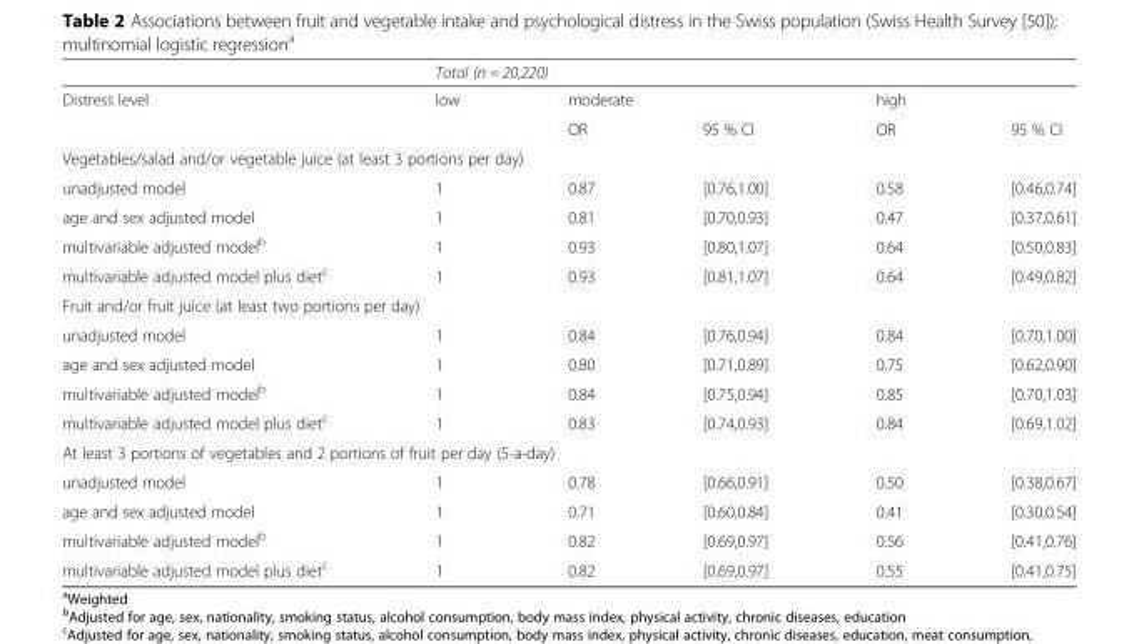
<table><thead><tr><td rowspan="3">Distress level</td><td colspan="5">Total (n = 20,220)</td></tr><tr><td rowspan="2">low</td><td colspan="2">moderate</td><td colspan="2">high</td></tr><tr><td>OR</td><td>95 % CI</td><td>OR</td><td>95 % CI</td></tr></thead><tbody><tr><td colspan="6">Vegetables/salad and/or vegetable juice (at least 3 portions per day)</td></tr><tr><td>unadjusted model</td><td>1</td><td>0.87</td><td>[0.76,1.00]</td><td>0.58</td><td>[0.46,0.74]</td></tr><tr><td>age and sex adjusted model</td><td>1</td><td>0.81</td><td>[0.70,0.93]</td><td>0.47</td><td>[0.37,0.61]</td></tr><tr><td>multivariable adjusted model<sup>b</sup></td><td>1</td><td>0.93</td><td>[0.80,1.07]</td><td>0.64</td><td>[0.50,0.83]</td></tr><tr><td>multivariable adjusted model plus diet<sup>c</sup></td><td>1</td><td>0.93</td><td>[0.81,1.07]</td><td>0.64</td><td>[0.49,0.82]</td></tr><tr><td colspan="6">Fruit and/or fruit juice (at least two portions per day)</td></tr><tr><td>unadjusted model</td><td>1</td><td>0.84</td><td>[0.76,0.94]</td><td>0.84</td><td>[0.70,1.00]</td></tr><tr><td>age and sex adjusted model</td><td>1</td><td>0.80</td><td>[0.71,0.89]</td><td>0.75</td><td>[0.62,0.90]</td></tr><tr><td>multivariable adjusted model<sup>b</sup></td><td>1</td><td>0.84</td><td>[0.75,0.94]</td><td>0.85</td><td>[0.70,1.03]</td></tr><tr><td>multivariable adjusted model plus diet<sup>c</sup></td><td>1</td><td>0.83</td><td>[0.74,0.93]</td><td>0.84</td><td>[0.69,1.02]</td></tr><tr><td colspan="6">At least 3 portions of vegetables and 2 portions of fruit per day (5-a-day)</td></tr><tr><td>unadjusted model</td><td>1</td><td>0.78</td><td>[0.66,0.91]</td><td>0.50</td><td>[0.38,0.67]</td></tr><tr><td>age and sex adjusted model</td><td>1</td><td>0.71</td><td>[0.60,0.84]</td><td>0.41</td><td>[0.30,0.54]</td></tr><tr><td>multivariable adjusted model<sup>b</sup></td><td>1</td><td>0.82</td><td>[0.69,0.97]</td><td>0.56</td><td>[0.41,0.76]</td></tr><tr><td>multivariable adjusted model plus diet<sup>c</sup></td><td>1</td><td>0.82</td><td>[0.69,0.97]</td><td>0.55</td><td>[0.41,0.75]</td></tr></tbody></table>